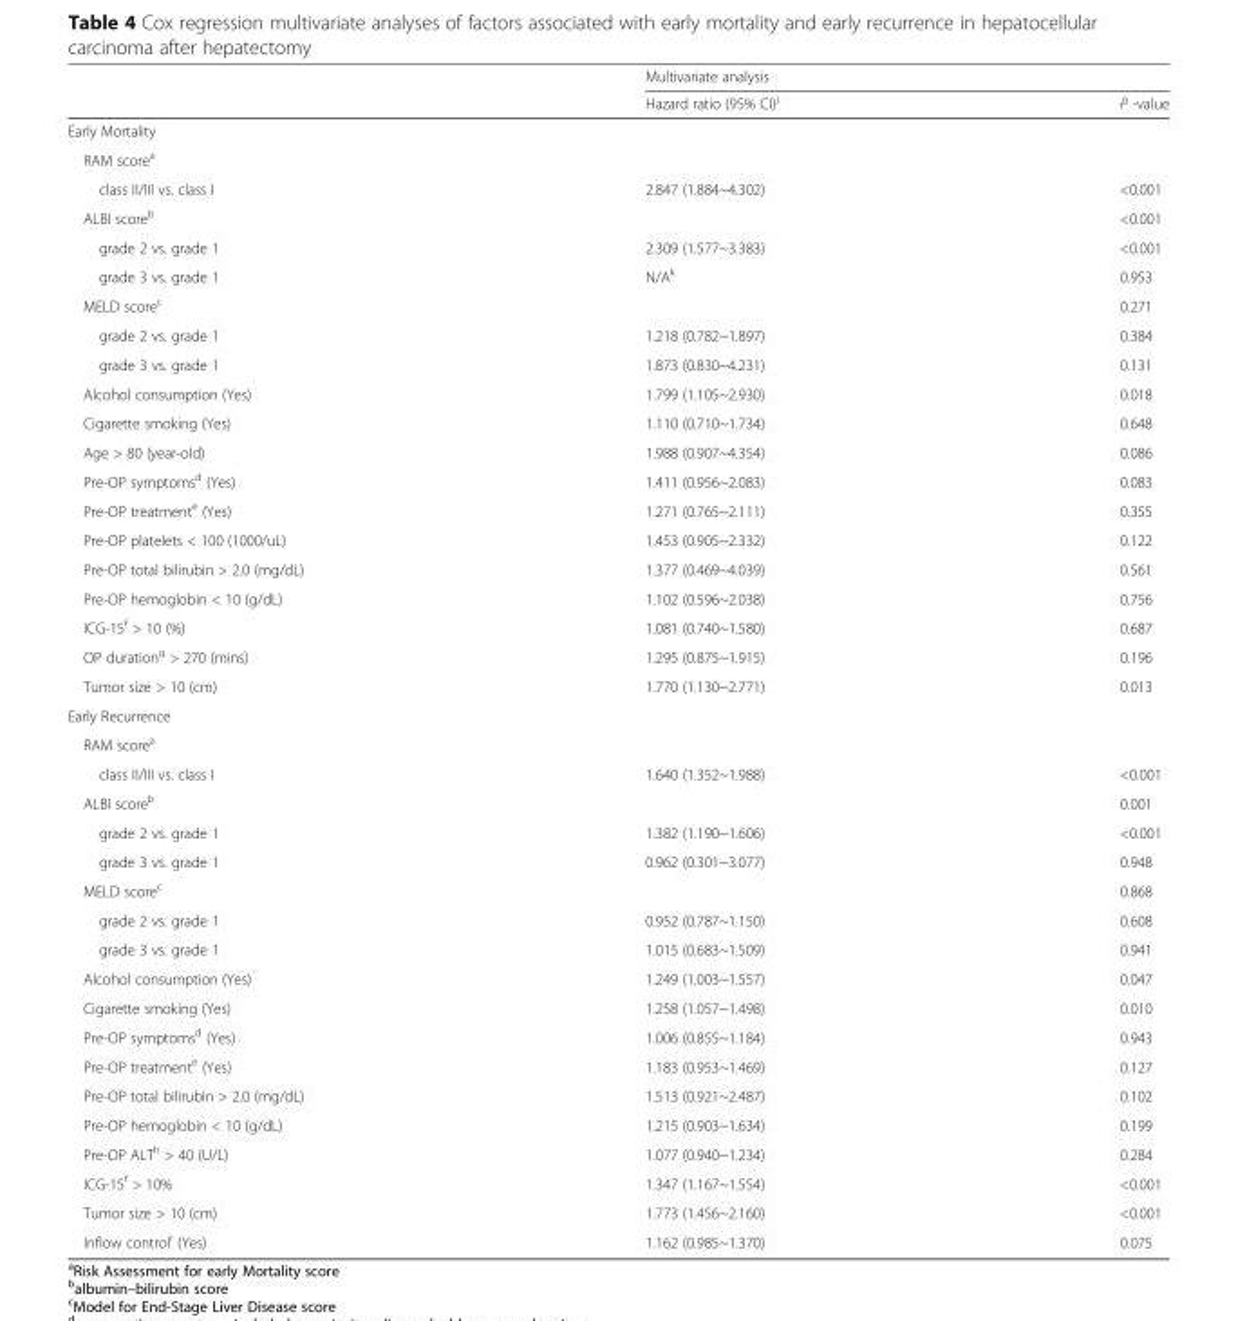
<table><thead><tr><td rowspan="2"></td><td colspan="2">Multivariate analysis</td></tr><tr><td>Hazard ratio (95% CI)<sup>j</sup></td><td>P -value</td></tr></thead><tbody><tr><td colspan="3">Early Mortality</td></tr><tr><td colspan="3">RAM score<sup>a</sup></td></tr><tr><td>class II/III vs. class I</td><td>2.847 (1.884~4.302)</td><td>&lt;0.001</td></tr><tr><td>ALBI score<sup>b</sup></td><td></td><td>&lt;0.001</td></tr><tr><td>grade 2 vs. grade 1</td><td>2.309 (1.577~3.383)</td><td>&lt;0.001</td></tr><tr><td>grade 3 vs. grade 1</td><td>N/A<sup>k</sup></td><td>0.953</td></tr><tr><td>MELD score<sup>c</sup></td><td></td><td>0.271</td></tr><tr><td>grade 2 vs. grade 1</td><td>1.218 (0.782~1.897)</td><td>0.384</td></tr><tr><td>grade 3 vs. grade 1</td><td>1.873 (0.830~4.231)</td><td>0.131</td></tr><tr><td>Alcohol consumption (Yes)</td><td>1.799 (1.105~2.930)</td><td>0.018</td></tr><tr><td>Cigarette smoking (Yes)</td><td>1.110 (0.710~1.734)</td><td>0.648</td></tr><tr><td>Age &gt; 80 (year-old)</td><td>1.988 (0.907~4.354)</td><td>0.086</td></tr><tr><td>Pre-OP symptoms<sup>d</sup> (Yes)</td><td>1.411 (0.956~2.083)</td><td>0.083</td></tr><tr><td>Pre-OP treatment<sup>e</sup> (Yes)</td><td>1.271 (0.765~2.111)</td><td>0.355</td></tr><tr><td>Pre-OP platelets &lt; 100 (1000/uL)</td><td>1.453 (0.905~2.332)</td><td>0.122</td></tr><tr><td>Pre-OP total bilirubin &gt; 2.0 (mg/dL)</td><td>1.377 (0.469~4.039)</td><td>0.561</td></tr><tr><td>Pre-OP hemoglobin &lt; 10 (g/dL)</td><td>1.102 (0.596~2.038)</td><td>0.756</td></tr><tr><td>ICG-15<sup>f</sup> &gt; 10 (%)</td><td>1.081 (0.740~1.580)</td><td>0.687</td></tr><tr><td>OP duration<sup>g</sup> &gt; 270 (mins)</td><td>1.295 (0.875~1.915)</td><td>0.196</td></tr><tr><td>Tumor size &gt; 10 (cm)</td><td>1.770 (1.130~2.771)</td><td>0.013</td></tr><tr><td colspan="3">Early Recurrence</td></tr><tr><td colspan="3">RAM score<sup>a</sup></td></tr><tr><td>class II/III vs. class I</td><td>1.640 (1.352~1.988)</td><td>&lt;0.001</td></tr><tr><td>ALBI score<sup>b</sup></td><td></td><td>0.001</td></tr><tr><td>grade 2 vs. grade 1</td><td>1.382 (1.190~1.606)</td><td>&lt;0.001</td></tr><tr><td>grade 3 vs. grade 1</td><td>0.962 (0.301~3.077)</td><td>0.948</td></tr><tr><td>MELD score<sup>c</sup></td><td></td><td>0.868</td></tr><tr><td>grade 2 vs. grade 1</td><td>0.952 (0.787~1.150)</td><td>0.608</td></tr><tr><td>grade 3 vs. grade 1</td><td>1.015 (0.683~1.509)</td><td>0.941</td></tr><tr><td>Alcohol consumption (Yes)</td><td>1.249 (1.003~1.557)</td><td>0.047</td></tr><tr><td>Cigarette smoking (Yes)</td><td>1.258 (1.057~1.498)</td><td>0.010</td></tr><tr><td>Pre-OP symptoms<sup>d</sup> (Yes)</td><td>1.006 (0.855~1.184)</td><td>0.943</td></tr><tr><td>Pre-OP treatment<sup>e</sup> (Yes)</td><td>1.183 (0.953~1.469)</td><td>0.127</td></tr><tr><td>Pre-OP total bilirubin &gt; 2.0 (mg/dL)</td><td>1.513 (0.921~2.487)</td><td>0.102</td></tr><tr><td>Pre-OP hemoglobin &lt; 10 (g/dL)</td><td>1.215 (0.903~1.634)</td><td>0.199</td></tr><tr><td>Pre-OP ALT<sup>h</sup> &gt; 40 (U/L)</td><td>1.077 (0.940~1.234)</td><td>0.284</td></tr><tr><td>ICG-15<sup>f</sup> &gt; 10%</td><td>1.347 (1.167~1.554)</td><td>&lt;0.001</td></tr><tr><td>Tumor size &gt; 10 (cm)</td><td>1.773 (1.456~2.160)</td><td>&lt;0.001</td></tr><tr><td>Inflow control<sup>i</sup> (Yes)</td><td>1.162 (0.985~1.370)</td><td>0.075</td></tr></tbody></table>